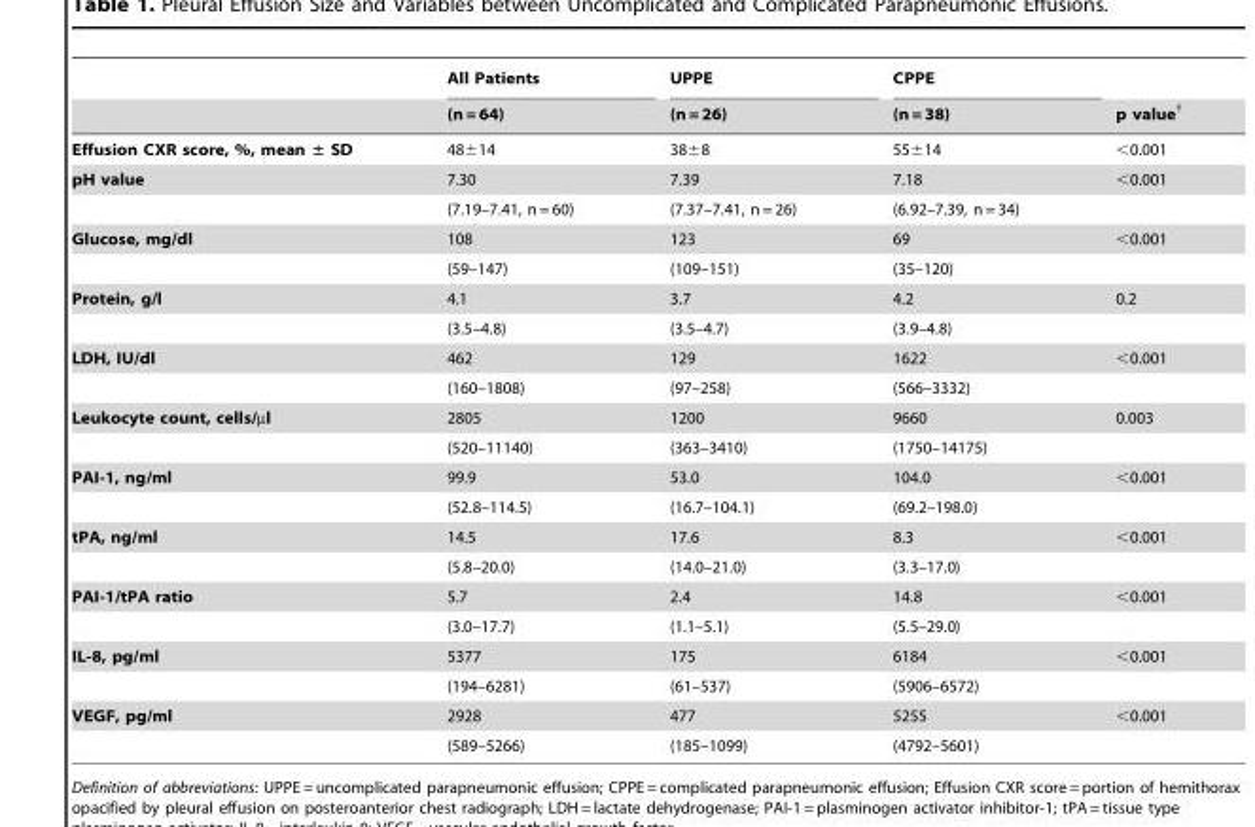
<table><thead><tr><td rowspan="2"></td><td rowspan="2">All Patients (n = 64)</td><td rowspan="2">UPPE (n = 26)</td><td rowspan="2">CPPE (n = 38)</td><td rowspan="2">p value†</td></tr><tr></tr></thead><tbody><tr><td>Effusion CXR score, %, mean ± SD</td><td>48±14</td><td>38±8</td><td>55±14</td><td>&lt;0.001</td></tr><tr><td rowspan="2">pH value</td><td>7.30</td><td>7.39</td><td>7.18</td><td>&lt;0.001</td></tr><tr><td>(7.19–7.41, n = 60)</td><td>(7.37–7.41, n = 26)</td><td>(6.92–7.39, n = 34)</td><td></td></tr><tr><td rowspan="2">Glucose, mg/dl</td><td>108</td><td>123</td><td>69</td><td>&lt;0.001</td></tr><tr><td>(59–147)</td><td>(109–151)</td><td>(35–120)</td><td></td></tr><tr><td rowspan="2">Protein, g/l</td><td>4.1</td><td>3.7</td><td>4.2</td><td>0.2</td></tr><tr><td>(3.5–4.8)</td><td>(3.5–4.7)</td><td>(3.9–4.8)</td><td></td></tr><tr><td rowspan="2">LDH, IU/dl</td><td>462</td><td>129</td><td>1622</td><td>&lt;0.001</td></tr><tr><td>(160–1808)</td><td>(97–258)</td><td>(566–3332)</td><td></td></tr><tr><td rowspan="2">Leukocyte count, cells/µl</td><td>2805</td><td>1200</td><td>9660</td><td>0.003</td></tr><tr><td>(520–11140)</td><td>(363–3410)</td><td>(1750–14175)</td><td></td></tr><tr><td rowspan="2">PAI-1, ng/ml</td><td>99.9</td><td>53.0</td><td>104.0</td><td>&lt;0.001</td></tr><tr><td>(52.8–114.5)</td><td>(16.7–104.1)</td><td>(69.2–198.0)</td><td></td></tr><tr><td rowspan="2">tPA, ng/ml</td><td>14.5</td><td>17.6</td><td>8.3</td><td>&lt;0.001</td></tr><tr><td>(5.8–20.0)</td><td>(14.0–21.0)</td><td>(3.3–17.0)</td><td></td></tr><tr><td rowspan="2">PAI-1/tPA ratio</td><td>5.7</td><td>2.4</td><td>14.8</td><td>&lt;0.001</td></tr><tr><td>(3.0–17.7)</td><td>(1.1–5.1)</td><td>(5.5–29.0)</td><td></td></tr><tr><td rowspan="2">IL-8, pg/ml</td><td>5377</td><td>175</td><td>6184</td><td>&lt;0.001</td></tr><tr><td>(194–6281)</td><td>(61–537)</td><td>(5906–6572)</td><td></td></tr><tr><td rowspan="2">VEGF, pg/ml</td><td>2928</td><td>477</td><td>5255</td><td>&lt;0.001</td></tr><tr><td>(589–5266)</td><td>(185–1099)</td><td>(4792–5601)</td><td></td></tr></tbody></table>